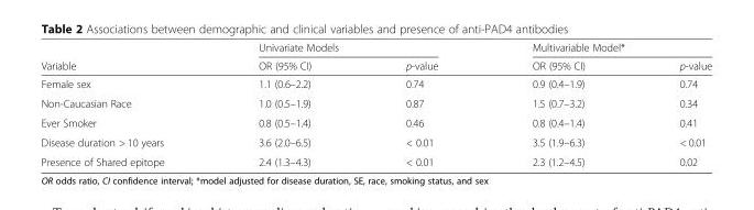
<table><thead><tr><td rowspan="2">Variable</td><td colspan="2">Univariate Models</td><td colspan="2">Multivariable Model*</td></tr><tr><td>OR (95% CI)</td><td>p-value</td><td>OR (95% CI)</td><td>p-value</td></tr></thead><tbody><tr><td>Female sex</td><td>1.1 (0.6–2.2)</td><td>0.74</td><td>0.9 (0.4–1.9)</td><td>0.74</td></tr><tr><td>Non-Caucasian Race</td><td>1.0 (0.5–1.9)</td><td>0.87</td><td>1.5 (0.7–3.2)</td><td>0.34</td></tr><tr><td>Ever Smoker</td><td>0.8 (0.5–1.4)</td><td>0.46</td><td>0.8 (0.4–1.4)</td><td>0.41</td></tr><tr><td>Disease duration &gt; 10 years</td><td>3.6 (2.0–6.5)</td><td>&lt; 0.01</td><td>3.5 (1.9–6.3)</td><td>&lt; 0.01</td></tr><tr><td>Presence of Shared epitope</td><td>2.4 (1.3–4.3)</td><td>&lt; 0.01</td><td>2.3 (1.2–4.5)</td><td>0.02</td></tr></tbody></table>